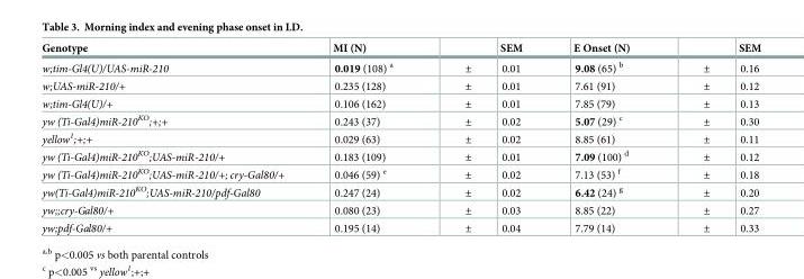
<table><thead><tr><td>Genotype</td><td>MI (N)</td><td></td><td>SEM</td><td>E Onset (N)</td><td></td><td>SEM</td></tr></thead><tbody><tr><td>w;tim-Gl4(U)/UAS-miR-210</td><td>0.019 (108) <sup>a</sup></td><td>±</td><td>0.01</td><td>9.08 (65) <sup>b</sup></td><td>±</td><td>0.16</td></tr><tr><td>w;UAS-miR-210/+</td><td>0.235 (128)</td><td>±</td><td>0.01</td><td>7.61 (91)</td><td>±</td><td>0.12</td></tr><tr><td>w;tim-Gl4(U)/+</td><td>0.106 (162)</td><td>±</td><td>0.01</td><td>7.85 (79)</td><td>±</td><td>0.13</td></tr><tr><td>yw (Ti-Gal4)miR-210<sup>KO</sup>;+;+</td><td>0.243 (37)</td><td>±</td><td>0.02</td><td>5.07 (29) <sup>c</sup></td><td>±</td><td>0.30</td></tr><tr><td>yellow<sup>1</sup>;+;+</td><td>0.029 (63)</td><td>±</td><td>0.02</td><td>8.85 (61)</td><td>±</td><td>0.11</td></tr><tr><td>yw (Ti-Gal4)miR-210<sup>KO</sup>;UAS-miR-210/+</td><td>0.183 (109)</td><td>±</td><td>0.01</td><td>7.09 (100) <sup>d</sup></td><td>±</td><td>0.12</td></tr><tr><td>yw (Ti-Gal4)miR-210<sup>KO</sup>;UAS-miR-210/+; cry-Gal80/+</td><td>0.046 (59) <sup>e</sup></td><td>±</td><td>0.02</td><td>7.13 (53) <sup>f</sup></td><td>±</td><td>0.18</td></tr><tr><td>yw(Ti-Gal4)miR-210<sup>KO</sup>;UAS-miR-210/pdf-Gal80</td><td>0.247 (24)</td><td>±</td><td>0.02</td><td>6.42 (24) <sup>g</sup></td><td>±</td><td>0.20</td></tr><tr><td>yw;;cry-Gal80/+</td><td>0.080 (23)</td><td>±</td><td>0.03</td><td>8.85 (22)</td><td>±</td><td>0.27</td></tr><tr><td>yw;pdf-Gal80/+</td><td>0.195 (14)</td><td>±</td><td>0.04</td><td>7.79 (14)</td><td>±</td><td>0.33</td></tr></tbody></table>